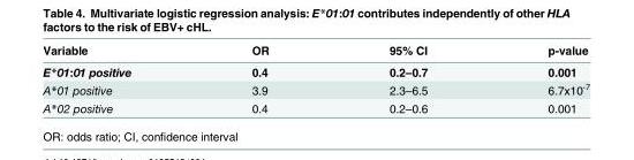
<table><thead><tr><td>Variable</td><td>OR</td><td>95% CI</td><td>p-value</td></tr></thead><tbody><tr><td>E*01:01 positive</td><td>0.4</td><td>0.2–0.7</td><td>0.001</td></tr><tr><td>A*01 positive</td><td>3.9</td><td>2.3–6.5</td><td>6.7x10<sup>-7</sup></td></tr><tr><td>A*02 positive</td><td>0.4</td><td>0.2–0.6</td><td>0.001</td></tr></tbody></table>